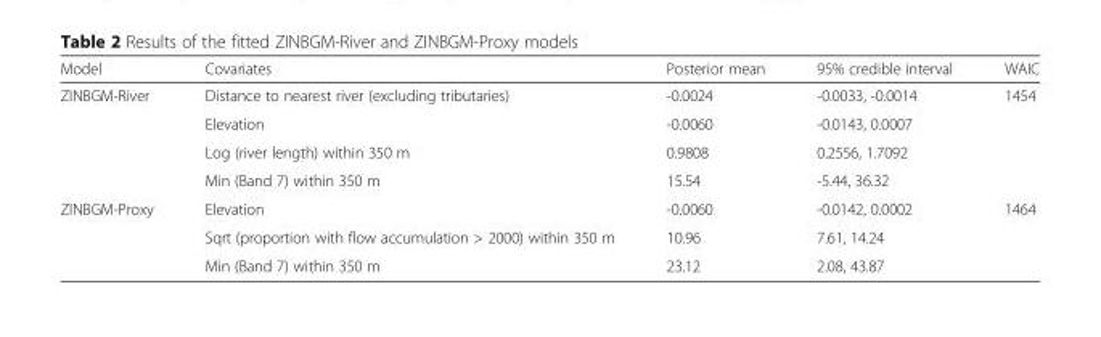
<table><thead><tr><td>Model</td><td>Covariates</td><td>Posterior mean</td><td>95% credible interval</td><td>WAIC</td></tr></thead><tbody><tr><td rowspan="4">ZINBGM-River</td><td>Distance to nearest river (excluding tributaries)</td><td>-0.0024</td><td>-0.0033, -0.0014</td><td>1454</td></tr><tr><td>Elevation</td><td>-0.0060</td><td>-0.0143, 0.0007</td><td></td></tr><tr><td>Log (river length) within 350 m</td><td>0.9808</td><td>0.2556, 1.7092</td><td></td></tr><tr><td>Min (Band 7) within 350 m</td><td>15.54</td><td>-5.44, 36.32</td><td></td></tr><tr><td rowspan="3">ZINBGM-Proxy</td><td>Elevation</td><td>-0.0060</td><td>-0.0142, 0.0002</td><td>1464</td></tr><tr><td>Sqrt (proportion with flow accumulation &gt; 2000) within 350 m</td><td>10.96</td><td>7.61, 14.24</td><td></td></tr><tr><td>Min (Band 7) within 350 m</td><td>23.12</td><td>2.08, 43.87</td><td></td></tr></tbody></table>